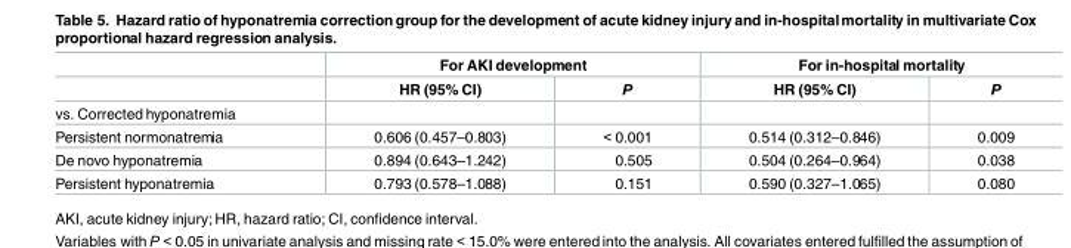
<table><thead><tr><td rowspan="2"></td><td colspan="2">For AKI development</td><td colspan="2">For in-hospital mortality</td></tr><tr><td>HR (95% CI)</td><td>P</td><td>HR (95% CI)</td><td>P</td></tr></thead><tbody><tr><td colspan="5">vs. Corrected hyponatremia</td></tr><tr><td>Persistent normonatremia</td><td>0.606 (0.457–0.803)</td><td>&lt; 0.001</td><td>0.514 (0.312–0.846)</td><td>0.009</td></tr><tr><td>De novo hyponatremia</td><td>0.894 (0.643–1.242)</td><td>0.505</td><td>0.504 (0.264–0.964)</td><td>0.038</td></tr><tr><td>Persistent hyponatremia</td><td>0.793 (0.578–1.088)</td><td>0.151</td><td>0.590 (0.327–1.065)</td><td>0.080</td></tr></tbody></table>